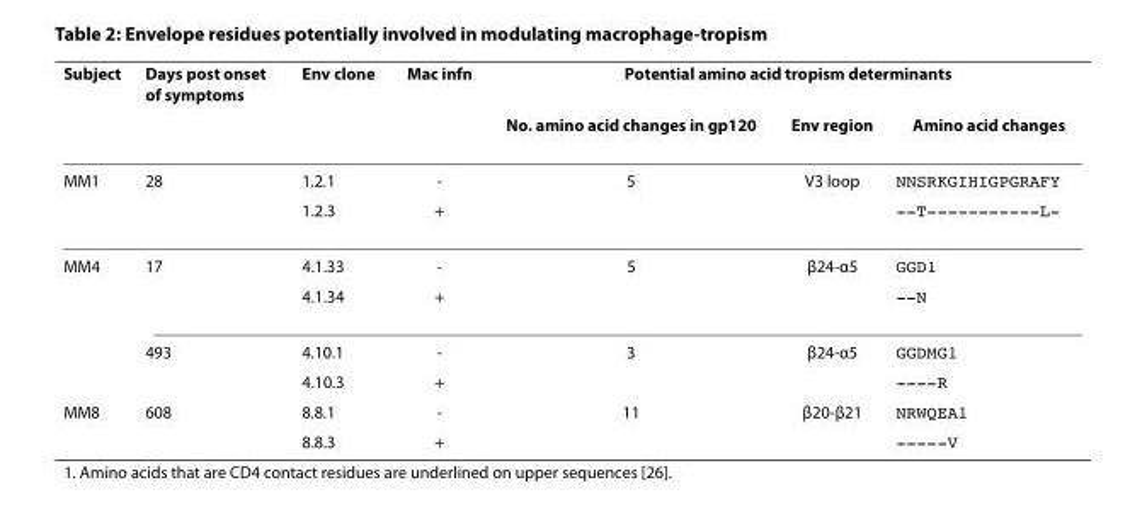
<table><thead><tr><td rowspan="2">Subject</td><td rowspan="2">Days post onset of symptoms</td><td rowspan="2">Env clone</td><td rowspan="2">Mac infn</td><td colspan="3">Potential amino acid tropism determinants</td></tr><tr><td>No. amino acid changes in gp120</td><td>Env region</td><td>Amino acid changes</td></tr></thead><tbody><tr><td rowspan="2">MM1</td><td>28</td><td>1.2.1</td><td>-</td><td>5</td><td>V3 loop</td><td>NNSRKGIHIGPGRAFY</td></tr><tr><td></td><td>1.2.3</td><td>+</td><td></td><td></td><td>--T-----------L-</td></tr><tr><td rowspan="4">MM4</td><td>17</td><td>4.1.33</td><td>-</td><td>5</td><td>β24-α5</td><td>GGD<sup>1</sup></td></tr><tr><td></td><td>4.1.34</td><td>+</td><td></td><td></td><td>--N</td></tr><tr><td>493</td><td>4.10.1</td><td>-</td><td>3</td><td>β24-α5</td><td>GGDMG<sup>1</sup></td></tr><tr><td></td><td>4.10.3</td><td>+</td><td></td><td></td><td>----R</td></tr><tr><td rowspan="2">MM8</td><td>608</td><td>8.8.1</td><td>-</td><td>11</td><td>β20-β21</td><td>NRWQEA<sup>1</sup></td></tr><tr><td></td><td>8.8.3</td><td>+</td><td></td><td></td><td>-----V</td></tr></tbody></table>